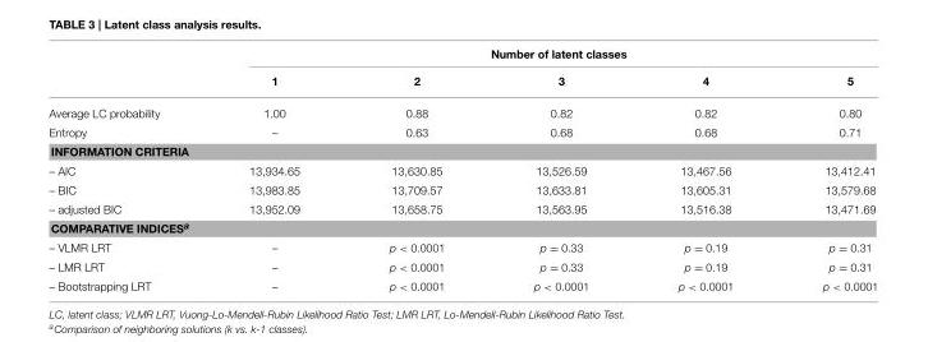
<table><thead><tr><td rowspan="2"></td><td colspan="5">Number of latent classes</td></tr><tr><td>1</td><td>2</td><td>3</td><td>4</td><td>5</td></tr></thead><tbody><tr><td>Average LC probability</td><td>1.00</td><td>0.88</td><td>0.82</td><td>0.82</td><td>0.80</td></tr><tr><td>Entropy</td><td>–</td><td>0.63</td><td>0.68</td><td>0.68</td><td>0.71</td></tr><tr><td colspan="6">INFORMATION CRITERIA</td></tr><tr><td>– AIC</td><td>13,934.65</td><td>13,630.85</td><td>13,526.59</td><td>13,467.56</td><td>13,412.41</td></tr><tr><td>– BIC</td><td>13,983.85</td><td>13,709.57</td><td>13,633.81</td><td>13,605.31</td><td>13,579.68</td></tr><tr><td>– adjusted BIC</td><td>13,952.09</td><td>13,658.75</td><td>13,563.95</td><td>13,516.38</td><td>13,471.69</td></tr><tr><td colspan="6">COMPARATIVE INDICES<sup>a</sup></td></tr><tr><td>– VLMR LRT</td><td>–</td><td>p &lt; 0.0001</td><td>p = 0.33</td><td>p = 0.19</td><td>p = 0.31</td></tr><tr><td>– LMR LRT</td><td>–</td><td>p &lt; 0.0001</td><td>p = 0.33</td><td>p = 0.19</td><td>p = 0.31</td></tr><tr><td>– Bootstrapping LRT</td><td>–</td><td>p &lt; 0.0001</td><td>p &lt; 0.0001</td><td>p &lt; 0.0001</td><td>p &lt; 0.0001</td></tr></tbody></table>